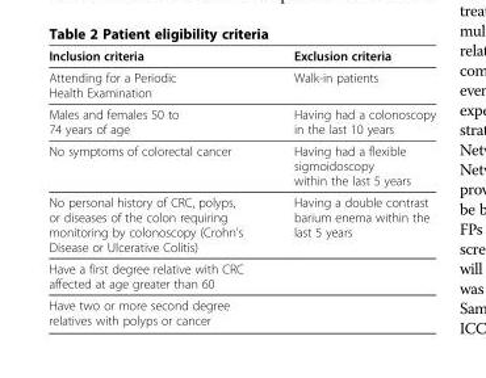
<table><thead><tr><td>Inclusion criteria</td><td>Exclusion criteria</td></tr></thead><tbody><tr><td>Attending for a Periodic Health Examination</td><td>Walk-in patients</td></tr><tr><td>Males and females 50 to 74 years of age</td><td>Having had a colonoscopy in the last 10 years</td></tr><tr><td>No symptoms of colorectal cancer</td><td>Having had a flexible sigmoidoscopy within the last 5 years</td></tr><tr><td>No personal history of CRC, polyps, or diseases of the colon requiring monitoring by colonoscopy (Crohn’s Disease or Ulcerative Colitis)</td><td>Having a double contrast barium enema within the last 5 years</td></tr><tr><td colspan="2">Have a first degree relative with CRC affected at age greater than 60</td></tr><tr><td>Have two or more second degree relatives with polyps or cancer</td><td></td></tr></tbody></table>